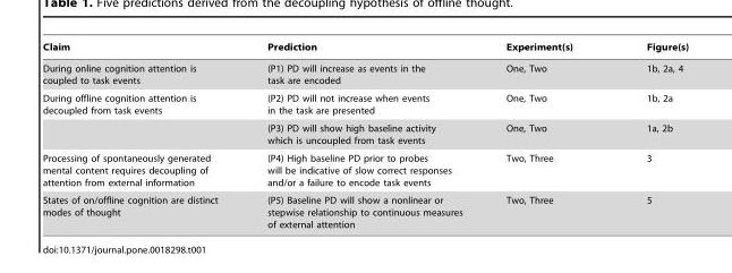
<table><thead><tr><td>Claim</td><td>Prediction</td><td>Experiment(s)</td><td>Figure(s)</td></tr></thead><tbody><tr><td>During online cognition attention is coupled to task events</td><td>(P1) PD will increase as events in the task are encoded</td><td>One, Two</td><td>1b, 2a, 4</td></tr><tr><td rowspan="2">During offline cognition attention is decoupled from task events</td><td>(P2) PD will not increase when events in the task are presented</td><td>One, Two</td><td>1b, 2a</td></tr><tr><td>(P3) PD will show high baseline activity which is uncoupled from task events</td><td>One, Two</td><td>1a, 2b</td></tr><tr><td>Processing of spontaneously generated mental content requires decoupling of attention from external information</td><td>(P4) High baseline PD prior to probes will be indicative of slow correct responses and/or a failure to encode task events</td><td>Two, Three</td><td>3</td></tr><tr><td>States of on/offline cognition are distinct modes of thought</td><td>(P5) Baseline PD will show a nonlinear or stepwise relationship to continuous measures of external attention</td><td>Two, Three</td><td>5</td></tr></tbody></table>